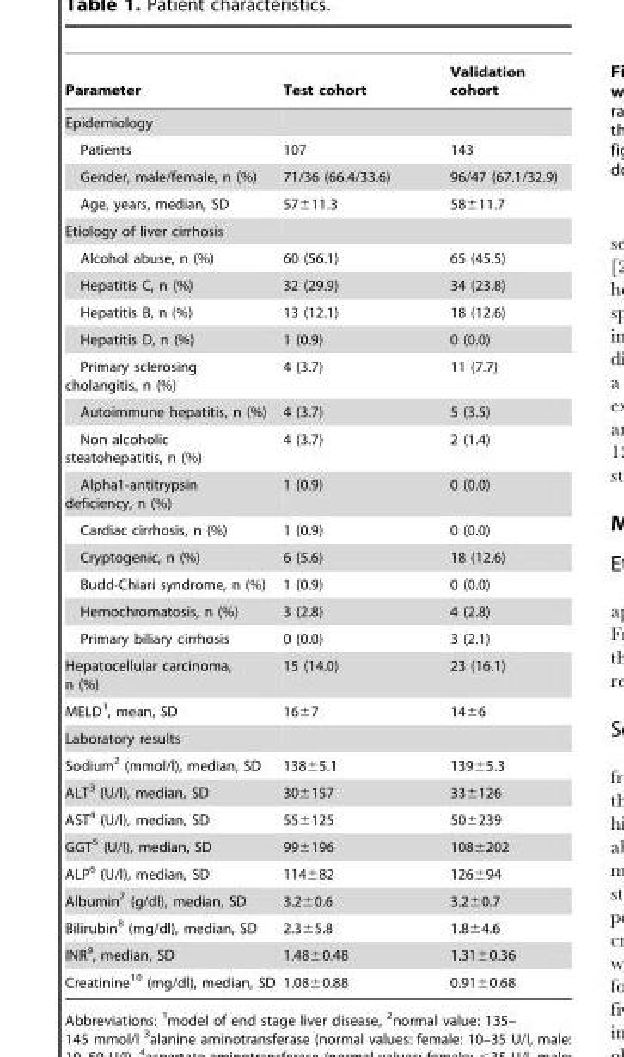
<table><thead><tr><td>Parameter</td><td>Test cohort</td><td>Validation cohort</td></tr></thead><tbody><tr><td colspan="3">Epidemiology</td></tr><tr><td>Patients</td><td>107</td><td>143</td></tr><tr><td>Gender, male/female, n (%)</td><td>71/36 (66.4/33.6)</td><td>96/47 (67.1/32.9)</td></tr><tr><td>Age, years, median, SD</td><td>57±11.3</td><td>58±11.7</td></tr><tr><td colspan="3">Etiology of liver cirrhosis</td></tr><tr><td>Alcohol abuse, n (%)</td><td>60 (56.1)</td><td>65 (45.5)</td></tr><tr><td>Hepatitis C, n (%)</td><td>32 (29.9)</td><td>34 (23.8)</td></tr><tr><td>Hepatitis B, n (%)</td><td>13 (12.1)</td><td>18 (12.6)</td></tr><tr><td>Hepatitis D, n (%)</td><td>1 (0.9)</td><td>0 (0.0)</td></tr><tr><td>Primary sclerosing cholangitis, n (%)</td><td>4 (3.7)</td><td>11 (7.7)</td></tr><tr><td>Autoimmune hepatitis, n (%)</td><td>4 (3.7)</td><td>5 (3.5)</td></tr><tr><td>Non alcoholic steatohepatitis, n (%)</td><td>4 (3.7)</td><td>2 (1.4)</td></tr><tr><td>Alpha1-antitrypsin deficiency, n (%)</td><td>1 (0.9)</td><td>0 (0.0)</td></tr><tr><td>Cardiac cirrhosis, n (%)</td><td>1 (0.9)</td><td>0 (0.0)</td></tr><tr><td>Cryptogenic, n (%)</td><td>6 (5.6)</td><td>18 (12.6)</td></tr><tr><td>Budd-Chiari syndrome, n (%)</td><td>1 (0.9)</td><td>0 (0.0)</td></tr><tr><td>Hemochromatosis, n (%)</td><td>3 (2.8)</td><td>4 (2.8)</td></tr><tr><td>Primary biliary cirrhosis</td><td>0 (0.0)</td><td>3 (2.1)</td></tr><tr><td>Hepatocellular carcinoma, n (%)</td><td>15 (14.0)</td><td>23 (16.1)</td></tr><tr><td>MELD<sup>1</sup>, mean, SD</td><td>16±7</td><td>14±6</td></tr><tr><td colspan="3">Laboratory results</td></tr><tr><td>Sodium<sup>2</sup> (mmol/l), median, SD</td><td>138±5.1</td><td>139±5.3</td></tr><tr><td>ALT<sup>3</sup> (U/l), median, SD</td><td>30±157</td><td>33±126</td></tr><tr><td>AST<sup>4</sup> (U/l), median, SD</td><td>55±125</td><td>50±239</td></tr><tr><td>GGT<sup>5</sup> (U/l), median, SD</td><td>99±196</td><td>108±202</td></tr><tr><td>ALP<sup>6</sup> (U/l), median, SD</td><td>114±82</td><td>126±94</td></tr><tr><td>Albumin<sup>7</sup> (g/dl), median, SD</td><td>3.2±0.6</td><td>3.2±0.7</td></tr><tr><td>Bilirubin<sup>8</sup> (mg/dl), median, SD</td><td>2.3±5.8</td><td>1.8±4.6</td></tr><tr><td>INR<sup>9</sup>, median, SD</td><td>1.48±0.48</td><td>1.31±0.36</td></tr><tr><td>Creatinine<sup>10</sup> (mg/dl), median, SD</td><td>1.08±0.88</td><td>0.91±0.68</td></tr></tbody></table>